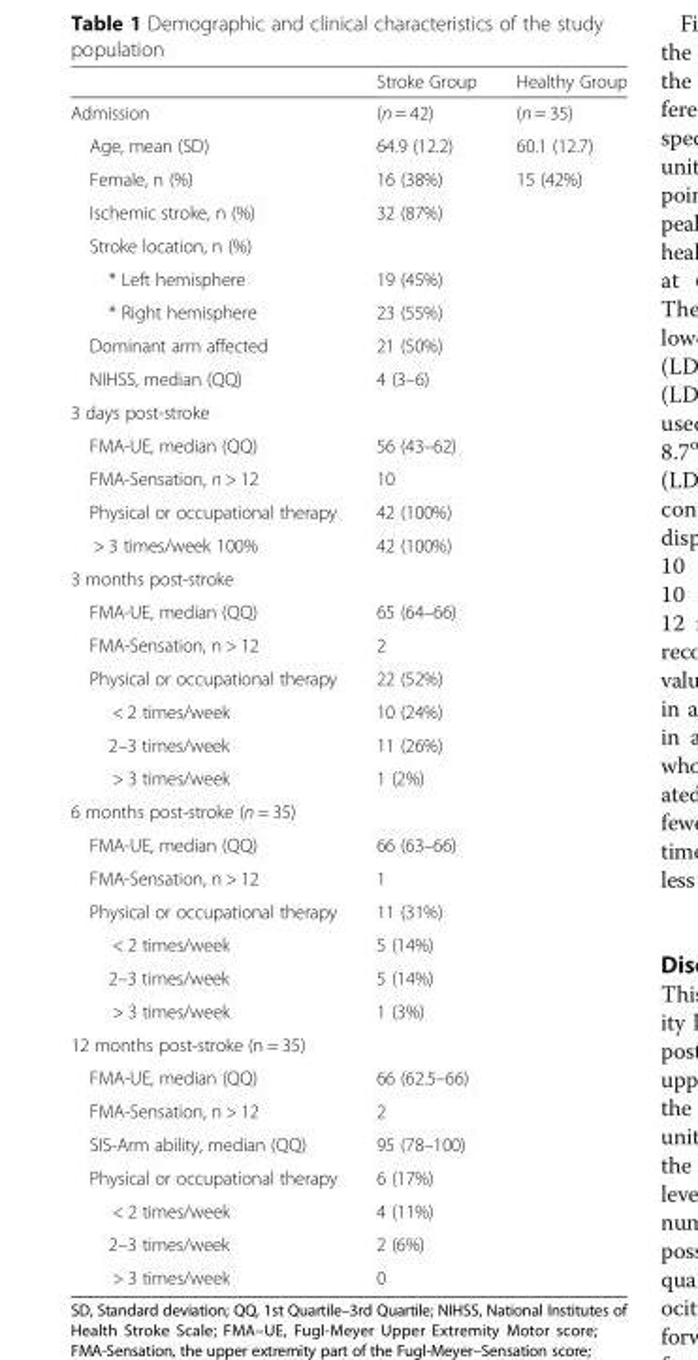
<table><thead><tr><td></td><td>Stroke Group</td><td>Healthy Group</td></tr></thead><tbody><tr><td>Admission</td><td>(n = 42)</td><td>(n = 35)</td></tr><tr><td>Age, mean (SD)</td><td>64.9 (12.2)</td><td>60.1 (12.7)</td></tr><tr><td>Female, n (%)</td><td>16 (38%)</td><td>15 (42%)</td></tr><tr><td>Ischemic stroke, n (%)</td><td>32 (87%)</td><td></td></tr><tr><td colspan="3">Stroke location, n (%)</td></tr><tr><td>* Left hemisphere</td><td>19 (45%)</td><td></td></tr><tr><td>* Right hemisphere</td><td>23 (55%)</td><td></td></tr><tr><td>Dominant arm affected</td><td>21 (50%)</td><td></td></tr><tr><td>NIHSS, median (QQ)</td><td>4 (3–6)</td><td></td></tr><tr><td colspan="3">3 days post-stroke</td></tr><tr><td>FMA-UE, median (QQ)</td><td>56 (43–62)</td><td></td></tr><tr><td>FMA-Sensation, n &gt; 12</td><td>10</td><td></td></tr><tr><td>Physical or occupational therapy</td><td>42 (100%)</td><td></td></tr><tr><td>&gt; 3 times/week 100%</td><td>42 (100%)</td><td></td></tr><tr><td colspan="3">3 months post-stroke</td></tr><tr><td>FMA-UE, median (QQ)</td><td>65 (64–66)</td><td></td></tr><tr><td>FMA-Sensation, n &gt; 12</td><td>2</td><td></td></tr><tr><td>Physical or occupational therapy</td><td>22 (52%)</td><td></td></tr><tr><td>&lt; 2 times/week</td><td>10 (24%)</td><td></td></tr><tr><td>2–3 times/week</td><td>11 (26%)</td><td></td></tr><tr><td>&gt; 3 times/week</td><td>1 (2%)</td><td></td></tr><tr><td colspan="3">6 months post-stroke (n = 35)</td></tr><tr><td>FMA-UE, median (QQ)</td><td>66 (63–66)</td><td></td></tr><tr><td>FMA-Sensation, n &gt; 12</td><td>1</td><td></td></tr><tr><td>Physical or occupational therapy</td><td>11 (31%)</td><td></td></tr><tr><td>&lt; 2 times/week</td><td>5 (14%)</td><td></td></tr><tr><td>2–3 times/week</td><td>5 (14%)</td><td></td></tr><tr><td>&gt; 3 times/week</td><td>1 (3%)</td><td></td></tr><tr><td colspan="3">12 months post-stroke (n = 35)</td></tr><tr><td>FMA-UE, median (QQ)</td><td>66 (62.5–66)</td><td></td></tr><tr><td>FMA-Sensation, n &gt; 12</td><td>2</td><td></td></tr><tr><td>SIS-Arm ability, median (QQ)</td><td>95 (78–100)</td><td></td></tr><tr><td>Physical or occupational therapy</td><td>6 (17%)</td><td></td></tr><tr><td>&lt; 2 times/week</td><td>4 (11%)</td><td></td></tr><tr><td>2–3 times/week</td><td>2 (6%)</td><td></td></tr><tr><td>&gt; 3 times/week</td><td>0</td><td></td></tr></tbody></table>